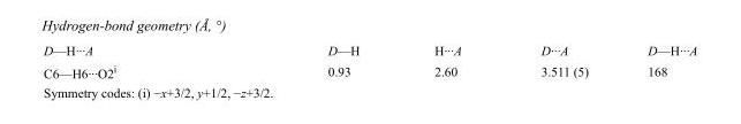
<table><tbody><tr><td>D—H···A</td><td>D—H</td><td>H···A</td><td>D···A</td><td>D—H···A</td></tr><tr><td>C6—H6···O2<sup>i</sup></td><td>0.93</td><td>2.60</td><td>3.511 (5)</td><td>168</td></tr></tbody></table>